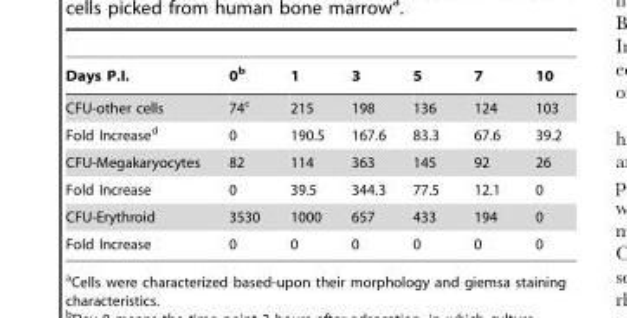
<table><thead><tr><td>Days P.I.</td><td>0<sup>b</sup></td><td>1</td><td>3</td><td>5</td><td>7</td><td>10</td></tr></thead><tbody><tr><td>CFU-other cells</td><td>74<sup>c</sup></td><td>215</td><td>198</td><td>136</td><td>124</td><td>103</td></tr><tr><td>Fold Increase<sup>d</sup></td><td>0</td><td>190.5</td><td>167.6</td><td>83.3</td><td>67.6</td><td>39.2</td></tr><tr><td>CFU-Megakaryocytes</td><td>82</td><td>114</td><td>363</td><td>145</td><td>92</td><td>26</td></tr><tr><td>Fold Increase</td><td>0</td><td>39.5</td><td>344.3</td><td>77.5</td><td>12.1</td><td>0</td></tr><tr><td>CFU-Erythroid</td><td>3530</td><td>1000</td><td>657</td><td>433</td><td>194</td><td>0</td></tr><tr><td>Fold Increase</td><td>0</td><td>0</td><td>0</td><td>0</td><td>0</td><td>0</td></tr></tbody></table>